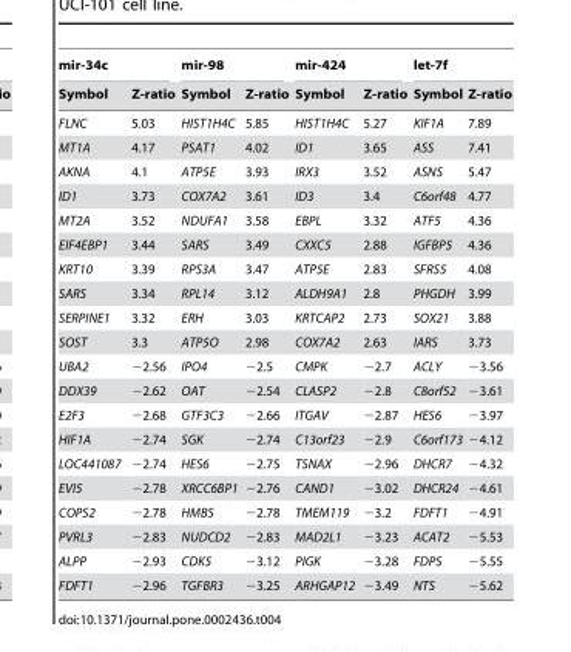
<table><thead><tr><td colspan="2">mir-34c</td><td colspan="2">mir-98</td><td colspan="2">mir-424</td><td colspan="2">let-7f</td></tr><tr><td>Symbol</td><td>Z-ratio</td><td>Symbol</td><td>Z-ratio</td><td>Symbol</td><td>Z-ratio</td><td>Symbol</td><td>Z-ratio</td></tr></thead><tbody><tr><td>FLNC</td><td>5.03</td><td>HIST1H4C</td><td>5.85</td><td>HIST1H4C</td><td>5.27</td><td>KIF1A</td><td>7.89</td></tr><tr><td>MT1A</td><td>4.17</td><td>PSAT1</td><td>4.02</td><td>ID1</td><td>3.65</td><td>ASS</td><td>7.41</td></tr><tr><td>AKNA</td><td>4.1</td><td>ATP5E</td><td>3.93</td><td>IRX3</td><td>3.52</td><td>ASNS</td><td>5.47</td></tr><tr><td>ID1</td><td>3.73</td><td>COX7A2</td><td>3.61</td><td>ID3</td><td>3.4</td><td>C6orf48</td><td>4.77</td></tr><tr><td>MT2A</td><td>3.52</td><td>NDUFA1</td><td>3.58</td><td>EBPL</td><td>3.32</td><td>ATF5</td><td>4.36</td></tr><tr><td>EIF4EBP1</td><td>3.44</td><td>SARS</td><td>3.49</td><td>CXXC5</td><td>2.88</td><td>IGFBP5</td><td>4.36</td></tr><tr><td>KRT10</td><td>3.39</td><td>RPS3A</td><td>3.47</td><td>ATP5E</td><td>2.83</td><td>SFRS5</td><td>4.08</td></tr><tr><td>SARS</td><td>3.34</td><td>RPL14</td><td>3.12</td><td>ALDH9A1</td><td>2.8</td><td>PHGDH</td><td>3.99</td></tr><tr><td>SERPINE1</td><td>3.32</td><td>ERH</td><td>3.03</td><td>KRTCAP2</td><td>2.73</td><td>SOX21</td><td>3.88</td></tr><tr><td>SOST</td><td>3.3</td><td>ATP5O</td><td>2.98</td><td>COX7A2</td><td>2.63</td><td>IARS</td><td>3.73</td></tr><tr><td>UBA2</td><td>−2.56</td><td>IPO4</td><td>−2.5</td><td>CMPK</td><td>−2.7</td><td>ACLY</td><td>−3.56</td></tr><tr><td>DDX39</td><td>−2.62</td><td>OAT</td><td>−2.54</td><td>CLASP2</td><td>−2.8</td><td>C8orf52</td><td>−3.61</td></tr><tr><td>E2F3</td><td>−2.68</td><td>GTF3C3</td><td>−2.66</td><td>ITGAV</td><td>−2.87</td><td>HES6</td><td>−3.97</td></tr><tr><td>HIF1A</td><td>−2.74</td><td>SGK</td><td>−2.74</td><td>C13orf23</td><td>−2.9</td><td>C6orf173</td><td>−4.12</td></tr><tr><td>LOC441087</td><td>−2.74</td><td>HES6</td><td>−2.75</td><td>TSNAX</td><td>−2.96</td><td>DHCR7</td><td>−4.32</td></tr><tr><td>EVI5</td><td>−2.78</td><td>XRCC6BP1</td><td>−2.76</td><td>CAND1</td><td>−3.02</td><td>DHCR24</td><td>−4.61</td></tr><tr><td>COPS2</td><td>−2.78</td><td>HMBS</td><td>−2.78</td><td>TMEM119</td><td>−3.2</td><td>FDFT1</td><td>−4.91</td></tr><tr><td>PVRL3</td><td>−2.83</td><td>NUDCD2</td><td>−2.83</td><td>MAD2L1</td><td>−3.23</td><td>ACAT2</td><td>−5.53</td></tr><tr><td>ALPP</td><td>−2.93</td><td>CDK5</td><td>−3.12</td><td>PIGK</td><td>−3.28</td><td>FDPS</td><td>−5.55</td></tr><tr><td>FDFT1</td><td>−2.96</td><td>TGFBR3</td><td>−3.25</td><td>ARHGAP12</td><td>−3.49</td><td>NTS</td><td>−5.62</td></tr></tbody></table>